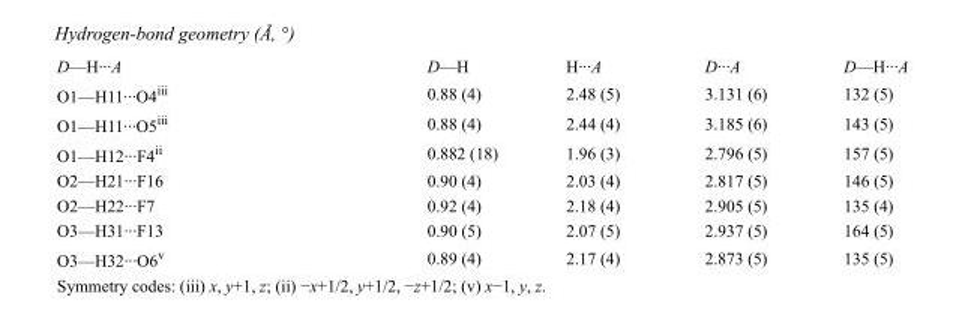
<table><tbody><tr><td>D—H···A</td><td>D—H</td><td>H···A</td><td>D···A</td><td>D—H···A</td></tr><tr><td>O1—H11···O4<sup>iii</sup></td><td>0.88 (4)</td><td>2.48 (5)</td><td>3.131 (6)</td><td>132 (5)</td></tr><tr><td>O1—H11···O5<sup>iii</sup></td><td>0.88 (4)</td><td>2.44 (4)</td><td>3.185 (6)</td><td>143 (5)</td></tr><tr><td>O1—H12···F4<sup>ii</sup></td><td>0.882 (18)</td><td>1.96 (3)</td><td>2.796 (5)</td><td>157 (5)</td></tr><tr><td>O2—H21···F16</td><td>0.90 (4)</td><td>2.03 (4)</td><td>2.817 (5)</td><td>146 (5)</td></tr><tr><td>O2—H22···F7</td><td>0.92 (4)</td><td>2.18 (4)</td><td>2.905 (5)</td><td>135 (4)</td></tr><tr><td>O3—H31···F13</td><td>0.90 (5)</td><td>2.07 (5)</td><td>2.937 (5)</td><td>164 (5)</td></tr><tr><td>O3—H32···O6<sup>v</sup></td><td>0.89 (4)</td><td>2.17 (4)</td><td>2.873 (5)</td><td>135 (5)</td></tr></tbody></table>